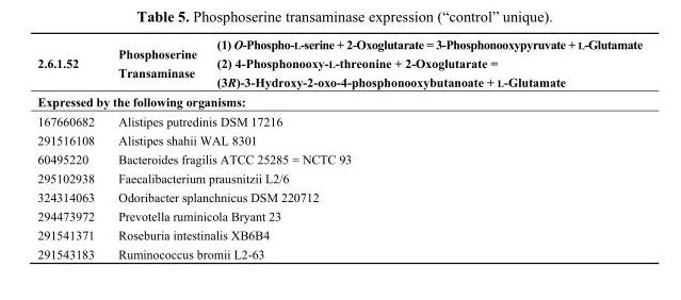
<table><thead><tr><td>2.6.1.52</td><td>Phosphoserine Transaminase</td><td>(1) O-Phospho-L-serine + 2-Oxoglutarate = 3-Phosphonooxypyruvate + L-Glutamate (2) 4-Phosphonooxy-L-threonine + 2-Oxoglutarate = (3R)-3-Hydroxy-2-oxo-4-phosphonooxybutanoate + L-Glutamate</td></tr></thead><tbody><tr><td colspan="3">Expressed by the following organisms:</td></tr><tr><td>167660682</td><td colspan="2">Alistipes putredinis DSM 17216</td></tr><tr><td>291516108</td><td colspan="2">Alistipes shahii WAL 8301</td></tr><tr><td>60495220</td><td colspan="2">Bacteroides fragilis ATCC 25285 = NCTC 93</td></tr><tr><td>295102938</td><td colspan="2">Faecalibacterium prausnitzii L2/6</td></tr><tr><td>324314063</td><td colspan="2">Odoribacter splanchnicus DSM 220712</td></tr><tr><td>294473972</td><td colspan="2">Prevotella ruminicola Bryant 23</td></tr><tr><td>291541371</td><td colspan="2">Roseburia intestinalis XB6B4</td></tr><tr><td>291543183</td><td colspan="2">Ruminococcus bromii L2-63</td></tr></tbody></table>